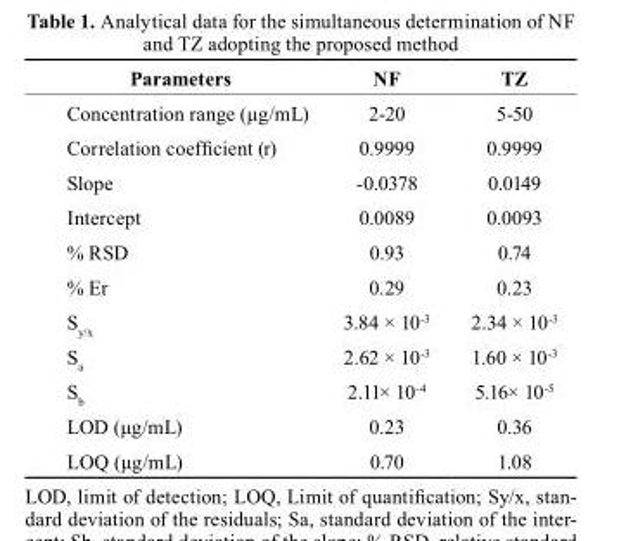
<table><thead><tr><td>Parameters</td><td>NF</td><td>TZ</td></tr></thead><tbody><tr><td>Concentration range (μg/mL)</td><td>2-20</td><td>5-50</td></tr><tr><td>Correlation coefficient (r)</td><td>0.9999</td><td>0.9999</td></tr><tr><td>Slope</td><td>-0.0378</td><td>0.0149</td></tr><tr><td>Intercept</td><td>0.0089</td><td>0.0093</td></tr><tr><td>% RSD</td><td>0.93</td><td>0.74</td></tr><tr><td>% Er</td><td>0.29</td><td>0.23</td></tr><tr><td>S<sub>y/x</sub></td><td>3.84 × 10<sup>-3</sup></td><td>2.34 × 10<sup>-3</sup></td></tr><tr><td>S<sub>a</sub></td><td>2.62 × 10<sup>-3</sup></td><td>1.60 × 10<sup>-3</sup></td></tr><tr><td>S<sub>b</sub></td><td>2.11× 10<sup>-4</sup></td><td>5.16× 10<sup>-5</sup></td></tr><tr><td>LOD (μg/mL)</td><td>0.23</td><td>0.36</td></tr><tr><td>LOQ (μg/mL)</td><td>0.70</td><td>1.08</td></tr></tbody></table>